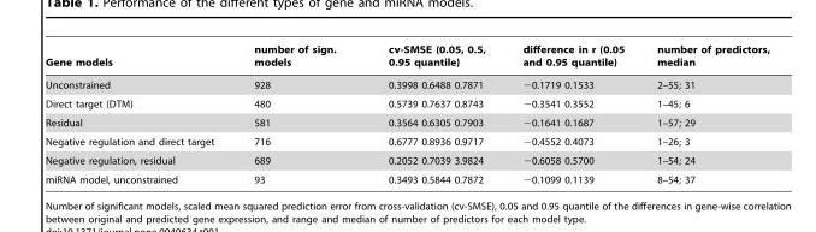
<table><thead><tr><td>Gene models</td><td>number of sign. models</td><td>cv-SMSE (0.05, 0.5, 0.95 quantile)</td><td>difference in r (0.05 and 0.95 quantile)</td><td>number of predictors, median</td></tr></thead><tbody><tr><td>Unconstrained</td><td>928</td><td>0.3998 0.6488 0.7871</td><td>−0.1719 0.1533</td><td>2–55; 31</td></tr><tr><td>Direct target (DTM)</td><td>480</td><td>0.5739 0.7637 0.8743</td><td>−0.3541 0.3552</td><td>1–45; 6</td></tr><tr><td>Residual</td><td>581</td><td>0.3564 0.6305 0.7903</td><td>−0.1641 0.1687</td><td>1–57; 29</td></tr><tr><td>Negative regulation and direct target</td><td>716</td><td>0.6777 0.8936 0.9717</td><td>−0.4552 0.4073</td><td>1–26; 3</td></tr><tr><td>Negative regulation, residual</td><td>689</td><td>0.2052 0.7039 3.9824</td><td>−0.6058 0.5700</td><td>1–54; 24</td></tr><tr><td>miRNA model, unconstrained</td><td>93</td><td>0.3493 0.5844 0.7872</td><td>−0.1099 0.1139</td><td>8–54; 37</td></tr></tbody></table>